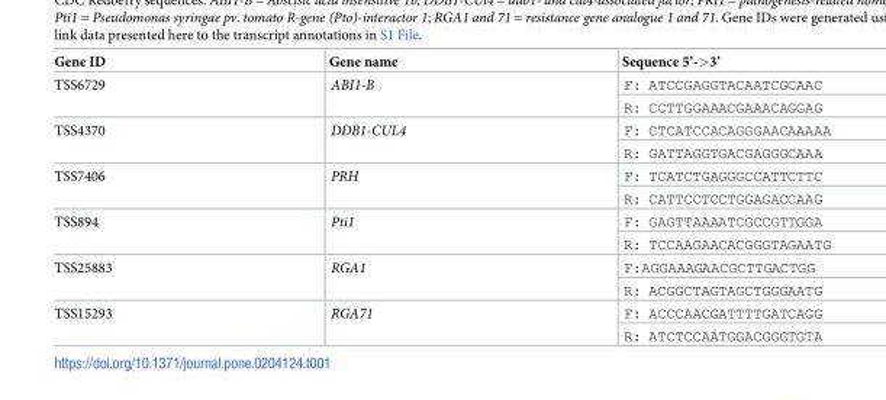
<table><thead><tr><td>Gene ID</td><td>Gene name</td><td>Sequence 5’-&gt;3’</td></tr></thead><tbody><tr><td rowspan="2">TSS6729</td><td rowspan="2">ABI1-B</td><td>F: ATCCGAGGTACAATCGCAAC</td></tr><tr><td>R: CCTTGGAAACGAAACAGGAG</td></tr><tr><td rowspan="2">TSS4370</td><td rowspan="2">DDB1-CUL4</td><td>F: CTCATCCACAGGGAACAAAAA</td></tr><tr><td>R: GATTAGGTGACGAGGGCAAA</td></tr><tr><td rowspan="2">TSS7406</td><td rowspan="2">PRH</td><td>F: TCATCTGAGGGCCATTCTTC</td></tr><tr><td>R: CATTCCTCCTGGAGACCAAG</td></tr><tr><td rowspan="2">TSS894</td><td rowspan="2">Pti1</td><td>F: GAGTTAAAATCGCCGTTGGA</td></tr><tr><td>R: TCCAAGAACACGGGTAGAATG</td></tr><tr><td rowspan="2">TSS25883</td><td rowspan="2">RGA1</td><td>F:AGGAAAGAACGCTTGACTGG</td></tr><tr><td>R: ACGGCTAGTAGCTGGGAATG</td></tr><tr><td rowspan="2">TSS15293</td><td rowspan="2">RGA71</td><td>F: ACCCAACGATTTTGATCAGG</td></tr><tr><td>R: ATCTCCAATGGACGGGTGTA</td></tr></tbody></table>